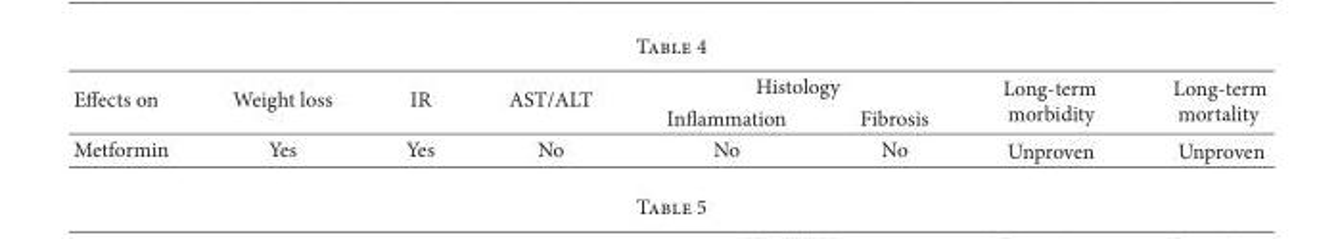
<table><thead><tr><td rowspan="2">Effects on</td><td rowspan="2">Weight loss</td><td rowspan="2">IR</td><td rowspan="2">AST/ALT</td><td colspan="2">Histology</td><td rowspan="2">Long-term morbidity</td><td rowspan="2">Long-term mortality</td></tr><tr><td>Inflammation</td><td>Fibrosis</td></tr></thead><tbody><tr><td>Metformin</td><td>Yes</td><td>Yes</td><td>No</td><td>No</td><td>No</td><td>Unproven</td><td>Unproven</td></tr></tbody></table>